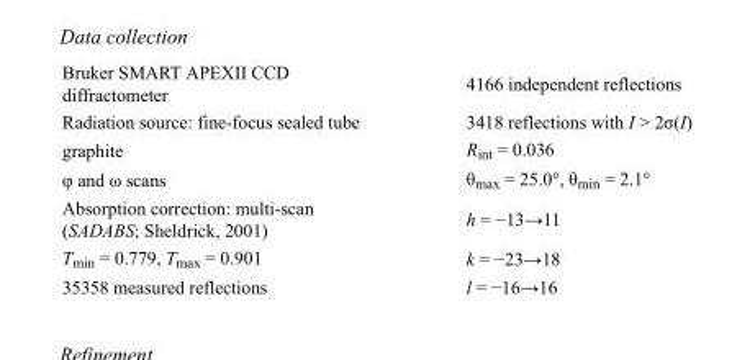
<table><tbody><tr><td>Bruker SMART APEXII CCD diffractometer</td><td>4166 independent reflections</td></tr><tr><td>Radiation source: fine-focus sealed tube</td><td>3418 reflections with I &gt; 2σ(I)</td></tr><tr><td>graphite</td><td>R<sub>int</sub> = 0.036</td></tr><tr><td>φ and ω scans</td><td>θ<sub>max</sub> = 25.0°, θ<sub>min</sub> = 2.1°</td></tr><tr><td>Absorption correction: multi-scan (SADABS; Sheldrick, 2001)</td><td>h = −13→11</td></tr><tr><td>T<sub>min</sub> = 0.779, T<sub>max</sub> = 0.901</td><td>k = −23→18</td></tr><tr><td>35358 measured reflections</td><td>l = −16→16</td></tr></tbody></table>